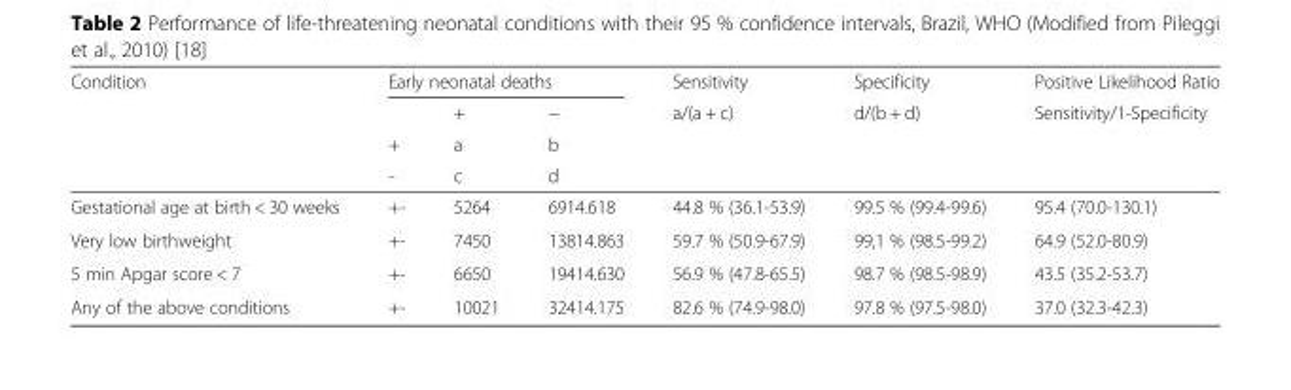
<table><thead><tr><td rowspan="4">Condition</td><td colspan="3">Early neonatal deaths</td><td rowspan="4">Sensitivity a/(a + c)</td><td rowspan="4">Specificity d/(b + d)</td><td rowspan="4">Positive Likelihood Ratio Sensitivity/1-Specificity</td></tr><tr><td rowspan="3">+ -</td><td rowspan="3">+ a c</td><td rowspan="3">− b d</td></tr><tr></tr><tr></tr></thead><tbody><tr><td>Gestational age at birth &lt; 30 weeks</td><td>+-</td><td>5264</td><td>6914.618</td><td>44.8 % (36.1-53.9)</td><td>99.5 % (99.4-99.6)</td><td>95.4 (70.0-130.1)</td></tr><tr><td>Very low birthweight</td><td>+-</td><td>7450</td><td>13814.863</td><td>59.7 % (50.9-67.9)</td><td>99,1 % (98.5-99.2)</td><td>64.9 (52.0-80.9)</td></tr><tr><td>5 min Apgar score &lt; 7</td><td>+-</td><td>6650</td><td>19414.630</td><td>56.9 % (47.8-65.5)</td><td>98.7 % (98.5-98.9)</td><td>43.5 (35.2-53.7)</td></tr><tr><td>Any of the above conditions</td><td>+-</td><td>10021</td><td>32414.175</td><td>82.6 % (74.9-98.0)</td><td>97.8 % (97.5-98.0)</td><td>37.0 (32.3-42.3)</td></tr></tbody></table>